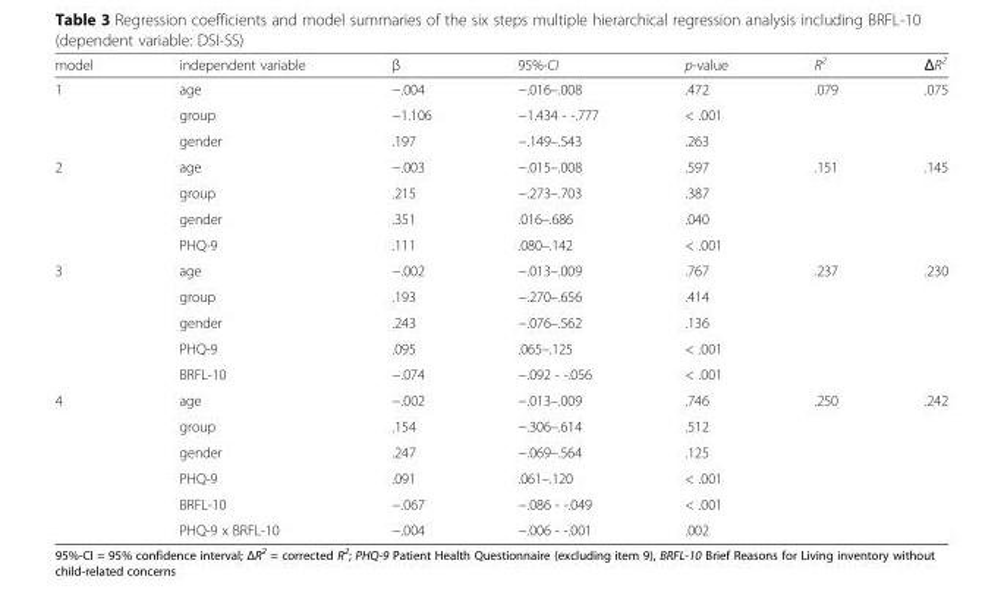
<table><thead><tr><td>model</td><td>independent variable</td><td>β</td><td>95%-CI</td><td>p-value</td><td>R<sup>2</sup></td><td>ΔR<sup>2</sup></td></tr></thead><tbody><tr><td rowspan="3">1</td><td>age</td><td>−.004</td><td>−.016–.008</td><td>.472</td><td>.079</td><td>.075</td></tr><tr><td>group</td><td>−1.106</td><td>−1.434 - -.777</td><td>&lt; .001</td><td></td><td></td></tr><tr><td>gender</td><td>.197</td><td>−.149–.543</td><td>.263</td><td></td><td></td></tr><tr><td rowspan="4">2</td><td>age</td><td>−.003</td><td>−.015–.008</td><td>.597</td><td>.151</td><td>.145</td></tr><tr><td>group</td><td>.215</td><td>−.273–.703</td><td>.387</td><td></td><td></td></tr><tr><td>gender</td><td>.351</td><td>.016–.686</td><td>.040</td><td></td><td></td></tr><tr><td>PHQ-9</td><td>.111</td><td>.080–.142</td><td>&lt; .001</td><td></td><td></td></tr><tr><td rowspan="5">3</td><td>age</td><td>−.002</td><td>−.013–.009</td><td>.767</td><td>.237</td><td>.230</td></tr><tr><td>group</td><td>.193</td><td>−.270–.656</td><td>.414</td><td></td><td></td></tr><tr><td>gender</td><td>.243</td><td>−.076–.562</td><td>.136</td><td></td><td></td></tr><tr><td>PHQ-9</td><td>.095</td><td>.065–.125</td><td>&lt; .001</td><td></td><td></td></tr><tr><td>BRFL-10</td><td>−.074</td><td>−.092 - -.056</td><td>&lt; .001</td><td></td><td></td></tr><tr><td rowspan="6">4</td><td>age</td><td>−.002</td><td>−.013–.009</td><td>.746</td><td>.250</td><td>.242</td></tr><tr><td>group</td><td>.154</td><td>−.306–.614</td><td>.512</td><td></td><td></td></tr><tr><td>gender</td><td>.247</td><td>−.069–.564</td><td>.125</td><td></td><td></td></tr><tr><td>PHQ-9</td><td>.091</td><td>.061–.120</td><td>&lt; .001</td><td></td><td></td></tr><tr><td>BRFL-10</td><td>−.067</td><td>−.086 - -.049</td><td>&lt; .001</td><td></td><td></td></tr><tr><td>PHQ-9 x BRFL-10</td><td>−.004</td><td>−.006 - -.001</td><td>.002</td><td></td><td></td></tr></tbody></table>